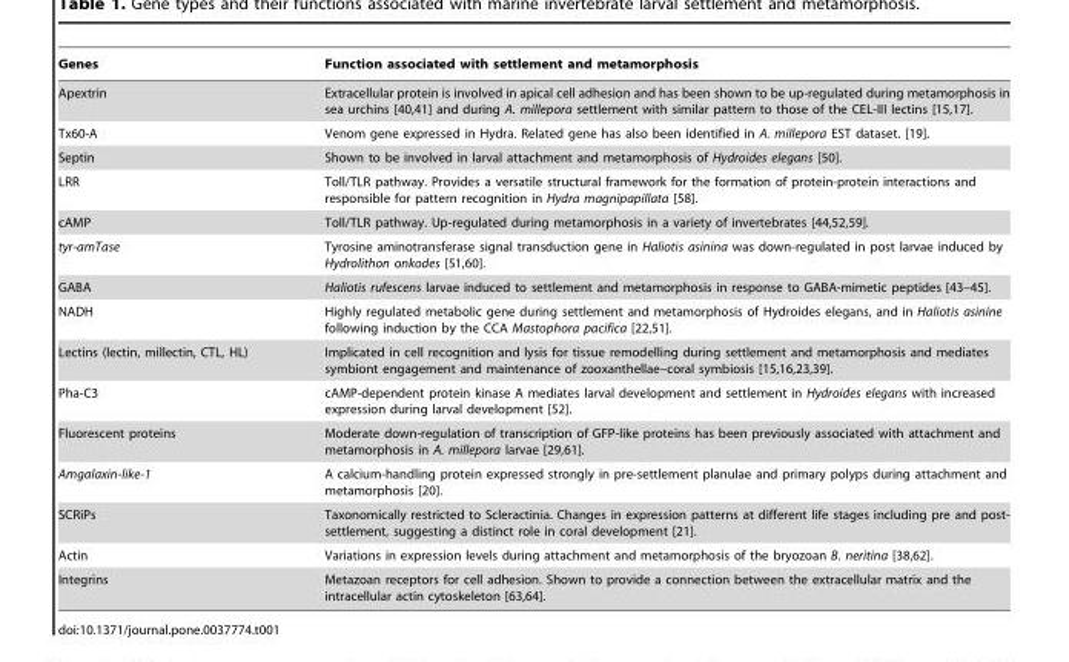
<table><thead><tr><td>Genes</td><td>Function associated with settlement and metamorphosis</td></tr></thead><tbody><tr><td>Apextrin</td><td>Extracellular protein is involved in apical cell adhesion and has been shown to be up-regulated during metamorphosis in sea urchins [40,41] and during A. millepora settlement with similar pattern to those of the CEL-III lectins [15,17].</td></tr><tr><td>Tx60-A</td><td>Venom gene expressed in Hydra. Related gene has also been identified in A. millepora EST dataset. [19].</td></tr><tr><td>Septin</td><td>Shown to be involved in larval attachment and metamorphosis of Hydroides elegans [50].</td></tr><tr><td>LRR</td><td>Toll/TLR pathway. Provides a versatile structural framework for the formation of protein-protein interactions and responsible for pattern recognition in Hydra magnipapillata [58].</td></tr><tr><td>cAMP</td><td>Toll/TLR pathway. Up-regulated during metamorphosis in a variety of invertebrates [44,52,59].</td></tr><tr><td>tyr-amTase</td><td>Tyrosine aminotransferase signal transduction gene in Haliotis asinina was down-regulated in post larvae induced by Hydrolithon onkodes [51,60].</td></tr><tr><td>GABA</td><td>Haliotis rufescens larvae induced to settlement and metamorphosis in response to GABA-mimetic peptides [43–45].</td></tr><tr><td>NADH</td><td>Highly regulated metabolic gene during settlement and metamorphosis of Hydroides elegans, and in Haliotis asinine following induction by the CCA Mastophora pacifica [22,51].</td></tr><tr><td>Lectins (lectin, millectin, CTL, HL)</td><td>Implicated in cell recognition and lysis for tissue remodelling during settlement and metamorphosis and mediates symbiont engagement and maintenance of zooxanthellae–coral symbiosis [15,16,23,39].</td></tr><tr><td>Pha-C3</td><td>cAMP-dependent protein kinase A mediates larval development and settlement in Hydroides elegans with increased expression during larval development [52].</td></tr><tr><td>Fluorescent proteins</td><td>Moderate down-regulation of transcription of GFP-like proteins has been previously associated with attachment and metamorphosis in A. millepora larvae [29,61].</td></tr><tr><td>Amgalaxin-like-1</td><td>A calcium-handling protein expressed strongly in pre-settlement planulae and primary polyps during attachment and metamorphosis [20].</td></tr><tr><td>SCRiPs</td><td>Taxonomically restricted to Scleractinia. Changes in expression patterns at different life stages including pre and post- settlement, suggesting a distinct role in coral development [21].</td></tr><tr><td>Actin</td><td>Variations in expression levels during attachment and metamorphosis of the bryozoan B. neritina [38,62].</td></tr><tr><td>Integrins</td><td>Metazoan receptors for cell adhesion. Shown to provide a connection between the extracellular matrix and the intracellular actin cytoskeleton [63,64].</td></tr></tbody></table>